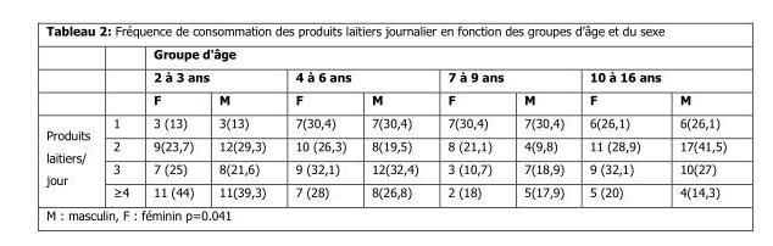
<table><thead><tr><td rowspan="3"></td><td rowspan="3"></td><td colspan="8">Groupe d&#x27;âge</td></tr><tr><td colspan="2">2 à 3 ans</td><td colspan="2">4 à 6 ans</td><td colspan="2">7 à 9 ans</td><td colspan="2">10 à 16 ans</td></tr><tr><td>F</td><td>M</td><td>F</td><td>M</td><td>F</td><td>M</td><td>F</td><td>M</td></tr></thead><tbody><tr><td rowspan="4">Produits laitiers/ jour</td><td>1</td><td>3 (13)</td><td>3(13)</td><td>7(30,4)</td><td>7(30,4)</td><td>7(30,4)</td><td>7(30,4)</td><td>6(26,1)</td><td>6(26,1)</td></tr><tr><td>2</td><td>9(23,7)</td><td>12(29,3)</td><td>10 (26,3)</td><td>8(19,5)</td><td>8 (21,1)</td><td>4(9,8)</td><td>11 (28,9)</td><td>17(41,5)</td></tr><tr><td>3</td><td>7 (25)</td><td>8(21,6)</td><td>9 (32,1)</td><td>12(32,4)</td><td>3 (10,7)</td><td>7(18,9)</td><td>9 (32,1)</td><td>10(27)</td></tr><tr><td>≥4</td><td>11 (44)</td><td>11(39,3)</td><td>7 (28)</td><td>8(26,8)</td><td>2 (18)</td><td>5(17,9)</td><td>5 (20)</td><td>4(14,3)</td></tr></tbody></table>